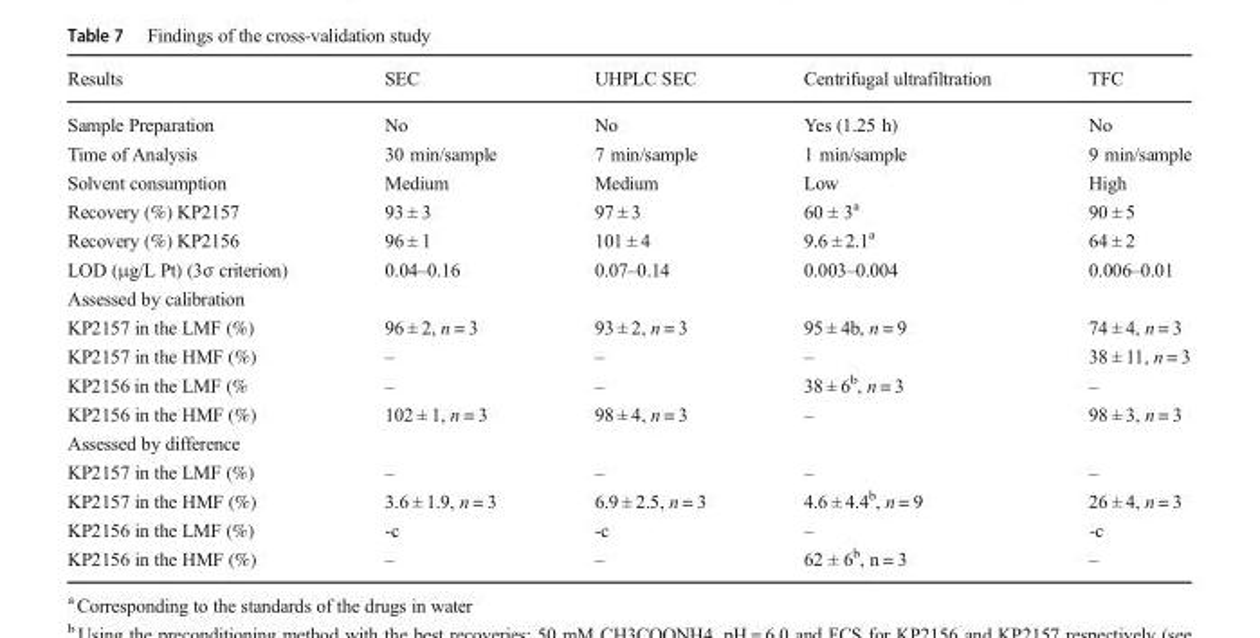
<table><thead><tr><td>Results</td><td>SEC</td><td>UHPLC SEC</td><td>Centrifugal ultrafiltration</td><td>TFC</td></tr></thead><tbody><tr><td>Sample Preparation</td><td>No</td><td>No</td><td>Yes (1.25 h)</td><td>No</td></tr><tr><td>Time of Analysis</td><td>30 min/sample</td><td>7 min/sample</td><td>1 min/sample</td><td>9 min/sample</td></tr><tr><td>Solvent consumption</td><td>Medium</td><td>Medium</td><td>Low</td><td>High</td></tr><tr><td>Recovery (%) KP2157</td><td>93 ± 3</td><td>97 ± 3</td><td>60 ± 3<sup>a</sup></td><td>90 ± 5</td></tr><tr><td>Recovery (%) KP2156</td><td>96 ± 1</td><td>101 ± 4</td><td>9.6 ± 2.1<sup>a</sup></td><td>64 ± 2</td></tr><tr><td>LOD (μg/L Pt) (3σ criterion)</td><td>0.04–0.16</td><td>0.07–0.14</td><td>0.003–0.004</td><td>0.006–0.01</td></tr><tr><td colspan="5">Assessed by calibration</td></tr><tr><td>KP2157 in the LMF (%)</td><td>96 ± 2, n = 3</td><td>93 ± 2, n = 3</td><td>95 ± 4b, n = 9</td><td>74 ± 4, n = 3</td></tr><tr><td>KP2157 in the HMF (%)</td><td>–</td><td>–</td><td>–</td><td>38 ± 11, n = 3</td></tr><tr><td>KP2156 in the LMF (%</td><td>–</td><td>–</td><td>38 ± 6<sup>b</sup>, n = 3</td><td>–</td></tr><tr><td>KP2156 in the HMF (%)</td><td>102 ± 1, n = 3</td><td>98 ± 4, n = 3</td><td>–</td><td>98 ± 3, n = 3</td></tr><tr><td colspan="5">Assessed by difference</td></tr><tr><td>KP2157 in the LMF (%)</td><td>–</td><td>–</td><td>–</td><td>–</td></tr><tr><td>KP2157 in the HMF (%)</td><td>3.6 ± 1.9, n = 3</td><td>6.9 ± 2.5, n = 3</td><td>4.6 ± 4.4<sup>b</sup>, n = 9</td><td>26 ± 4, n = 3</td></tr><tr><td>KP2156 in the LMF (%)</td><td>-c</td><td>-c</td><td>–</td><td>-c</td></tr><tr><td>KP2156 in the HMF (%)</td><td>–</td><td>–</td><td>62 ± 6<sup>b</sup>, n = 3</td><td>–</td></tr></tbody></table>